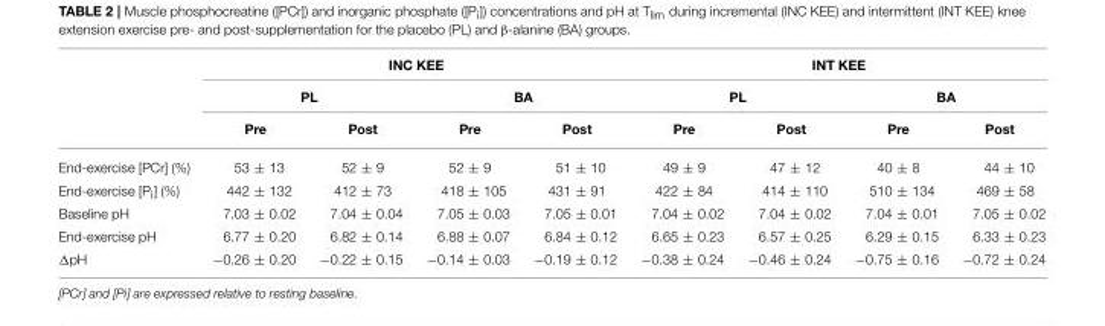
<table><thead><tr><td rowspan="3"></td><td colspan="4">INC KEE</td><td colspan="4">INT KEE</td></tr><tr><td colspan="2">PL</td><td colspan="2">BA</td><td colspan="2">PL</td><td colspan="2">BA</td></tr><tr><td>Pre</td><td>Post</td><td>Pre</td><td>Post</td><td>Pre</td><td>Post</td><td>Pre</td><td>Post</td></tr></thead><tbody><tr><td>End-exercise [PCr] (%)</td><td>53 ± 13</td><td>52 ± 9</td><td>52 ± 9</td><td>51 ± 10</td><td>49 ± 9</td><td>47 ± 12</td><td>40 ± 8</td><td>44 ± 10</td></tr><tr><td>End-exercise [P<sub>i</sub>] (%)</td><td>442 ± 132</td><td>412 ± 73</td><td>418 ± 105</td><td>431 ± 91</td><td>422 ± 84</td><td>414 ± 110</td><td>510 ± 134</td><td>469 ± 58</td></tr><tr><td>Baseline pH</td><td>7.03 ± 0.02</td><td>7.04 ± 0.04</td><td>7.05 ± 0.03</td><td>7.05 ± 0.01</td><td>7.04 ± 0.02</td><td>7.04 ± 0.02</td><td>7.04 ± 0.01</td><td>7.05 ± 0.02</td></tr><tr><td>End-exercise pH</td><td>6.77 ± 0.20</td><td>6.82 ± 0.14</td><td>6.88 ± 0.07</td><td>6.84 ± 0.12</td><td>6.65 ± 0.23</td><td>6.57 ± 0.25</td><td>6.29 ± 0.15</td><td>6.33 ± 0.23</td></tr><tr><td>ΔpH</td><td>−0.26 ± 0.20</td><td>−0.22 ± 0.15</td><td>−0.14 ± 0.03</td><td>−0.19 ± 0.12</td><td>−0.38 ± 0.24</td><td>−0.46 ± 0.24</td><td>−0.75 ± 0.16</td><td>−0.72 ± 0.24</td></tr></tbody></table>